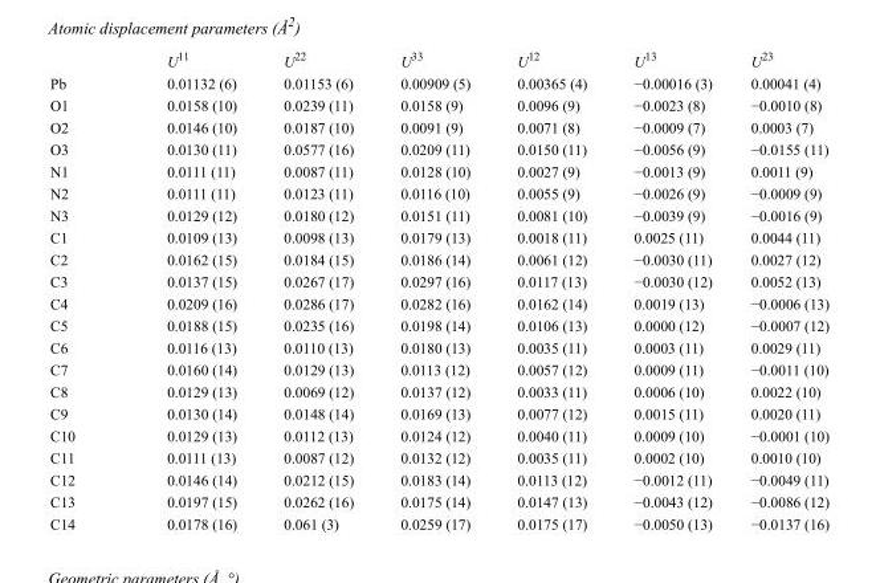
<table><thead><tr><td></td><td>U<sup>11</sup></td><td>U<sup>22</sup></td><td>U<sup>33</sup></td><td>U<sup>12</sup></td><td>U<sup>13</sup></td><td>U<sup>23</sup></td></tr></thead><tbody><tr><td>Pb</td><td>0.01132 (6)</td><td>0.01153 (6)</td><td>0.00909 (5)</td><td>0.00365 (4)</td><td>−0.00016 (3)</td><td>0.00041 (4)</td></tr><tr><td>O1</td><td>0.0158 (10)</td><td>0.0239 (11)</td><td>0.0158 (9)</td><td>0.0096 (9)</td><td>−0.0023 (8)</td><td>−0.0010 (8)</td></tr><tr><td>O2</td><td>0.0146 (10)</td><td>0.0187 (10)</td><td>0.0091 (9)</td><td>0.0071 (8)</td><td>−0.0009 (7)</td><td>0.0003 (7)</td></tr><tr><td>O3</td><td>0.0130 (11)</td><td>0.0577 (16)</td><td>0.0209 (11)</td><td>0.0150 (11)</td><td>−0.0056 (9)</td><td>−0.0155 (11)</td></tr><tr><td>N1</td><td>0.0111 (11)</td><td>0.0087 (11)</td><td>0.0128 (10)</td><td>0.0027 (9)</td><td>−0.0013 (9)</td><td>0.0011 (9)</td></tr><tr><td>N2</td><td>0.0111 (11)</td><td>0.0123 (11)</td><td>0.0116 (10)</td><td>0.0055 (9)</td><td>−0.0026 (9)</td><td>−0.0009 (9)</td></tr><tr><td>N3</td><td>0.0129 (12)</td><td>0.0180 (12)</td><td>0.0151 (11)</td><td>0.0081 (10)</td><td>−0.0039 (9)</td><td>−0.0016 (9)</td></tr><tr><td>C1</td><td>0.0109 (13)</td><td>0.0098 (13)</td><td>0.0179 (13)</td><td>0.0018 (11)</td><td>0.0025 (11)</td><td>0.0044 (11)</td></tr><tr><td>C2</td><td>0.0162 (15)</td><td>0.0184 (15)</td><td>0.0186 (14)</td><td>0.0061 (12)</td><td>−0.0030 (11)</td><td>0.0027 (12)</td></tr><tr><td>C3</td><td>0.0137 (15)</td><td>0.0267 (17)</td><td>0.0297 (16)</td><td>0.0117 (13)</td><td>−0.0030 (12)</td><td>0.0052 (13)</td></tr><tr><td>C4</td><td>0.0209 (16)</td><td>0.0286 (17)</td><td>0.0282 (16)</td><td>0.0162 (14)</td><td>0.0019 (13)</td><td>−0.0006 (13)</td></tr><tr><td>C5</td><td>0.0188 (15)</td><td>0.0235 (16)</td><td>0.0198 (14)</td><td>0.0106 (13)</td><td>0.0000 (12)</td><td>−0.0007 (12)</td></tr><tr><td>C6</td><td>0.0116 (13)</td><td>0.0110 (13)</td><td>0.0180 (13)</td><td>0.0035 (11)</td><td>0.0003 (11)</td><td>0.0029 (11)</td></tr><tr><td>C7</td><td>0.0160 (14)</td><td>0.0129 (13)</td><td>0.0113 (12)</td><td>0.0057 (12)</td><td>0.0009 (11)</td><td>−0.0011 (10)</td></tr><tr><td>C8</td><td>0.0129 (13)</td><td>0.0069 (12)</td><td>0.0137 (12)</td><td>0.0033 (11)</td><td>0.0006 (10)</td><td>0.0022 (10)</td></tr><tr><td>C9</td><td>0.0130 (14)</td><td>0.0148 (14)</td><td>0.0169 (13)</td><td>0.0077 (12)</td><td>0.0015 (11)</td><td>0.0020 (11)</td></tr><tr><td>C10</td><td>0.0129 (13)</td><td>0.0112 (13)</td><td>0.0124 (12)</td><td>0.0040 (11)</td><td>0.0009 (10)</td><td>−0.0001 (10)</td></tr><tr><td>C11</td><td>0.0111 (13)</td><td>0.0087 (12)</td><td>0.0132 (12)</td><td>0.0035 (11)</td><td>0.0002 (10)</td><td>0.0010 (10)</td></tr><tr><td>C12</td><td>0.0146 (14)</td><td>0.0212 (15)</td><td>0.0183 (14)</td><td>0.0113 (12)</td><td>−0.0012 (11)</td><td>−0.0049 (11)</td></tr><tr><td>C13</td><td>0.0197 (15)</td><td>0.0262 (16)</td><td>0.0175 (14)</td><td>0.0147 (13)</td><td>−0.0043 (12)</td><td>−0.0086 (12)</td></tr><tr><td>C14</td><td>0.0178 (16)</td><td>0.061 (3)</td><td>0.0259 (17)</td><td>0.0175 (17)</td><td>−0.0050 (13)</td><td>−0.0137 (16)</td></tr></tbody></table>